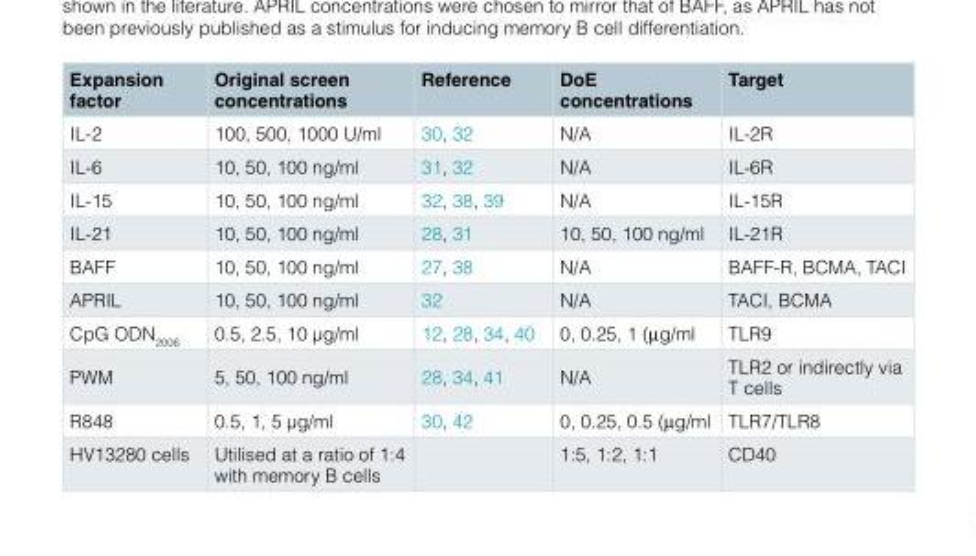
<table><thead><tr><td>Expansion factor</td><td>Original screen concentrations</td><td>Reference</td><td>DoE concentrations</td><td>Target</td></tr></thead><tbody><tr><td>IL-2</td><td>100, 500, 1000 U/ml</td><td>30, 32</td><td>N/A</td><td>IL-2R</td></tr><tr><td>IL-6</td><td>10, 50, 100 ng/ml</td><td>31, 32</td><td>N/A</td><td>IL-6R</td></tr><tr><td>IL-15</td><td>10, 50, 100 ng/ml</td><td>32, 38, 39</td><td>N/A</td><td>IL-15R</td></tr><tr><td>IL-21</td><td>10, 50, 100 ng/ml</td><td>28, 31</td><td>10, 50, 100 ng/ml</td><td>IL-21R</td></tr><tr><td>BAFF</td><td>10, 50, 100 ng/ml</td><td>27, 38</td><td>N/A</td><td>BAFF-R, BCMA, TACI</td></tr><tr><td>APRIL</td><td>10, 50, 100 ng/ml</td><td>32</td><td>N/A</td><td>TACI, BCMA</td></tr><tr><td>CpG ODN<sub>2006</sub></td><td>0.5, 2.5, 10 μg/ml</td><td>12, 28, 34, 40</td><td>0, 0.25, 1 (µg/ml</td><td>TLR9</td></tr><tr><td>PWM</td><td>5, 50, 100 ng/ml</td><td>28, 34, 41</td><td>N/A</td><td>TLR2 or indirectly via T cells</td></tr><tr><td>R848</td><td>0.5, 1, 5 μg/ml</td><td>30, 42</td><td>0, 0.25, 0.5 (µg/ml</td><td>TLR7/TLR8</td></tr><tr><td>HV13280 cells</td><td>Utilised at a ratio of 1:4 with memory B cells</td><td></td><td>1:5, 1:2, 1:1</td><td>CD40</td></tr></tbody></table>